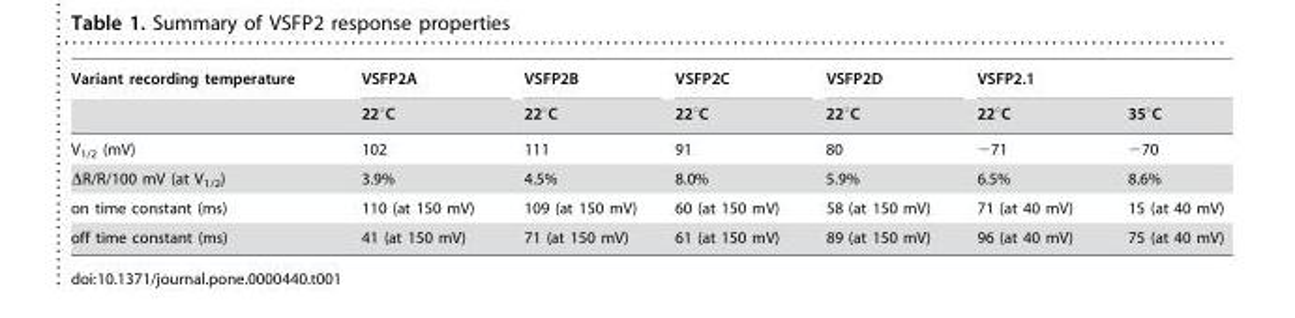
<table><thead><tr><td rowspan="2">Variant recording temperature</td><td rowspan="2">VSFP2A 22°C</td><td rowspan="2">VSFP2B 22°C</td><td rowspan="2">VSFP2C 22°C</td><td rowspan="2">VSFP2D 22°C</td><td colspan="2">VSFP2.1</td></tr><tr><td>22°C</td><td>35°C</td></tr></thead><tbody><tr><td>V<sub>1/2</sub> (mV)</td><td>102</td><td>111</td><td>91</td><td>80</td><td>−71</td><td>−70</td></tr><tr><td>ΔR/R/100 mV (at V<sub>1/2</sub>)</td><td>3.9%</td><td>4.5%</td><td>8.0%</td><td>5.9%</td><td>6.5%</td><td>8.6%</td></tr><tr><td>on time constant (ms)</td><td>110 (at 150 mV)</td><td>109 (at 150 mV)</td><td>60 (at 150 mV)</td><td>58 (at 150 mV)</td><td>71 (at 40 mV)</td><td>15 (at 40 mV)</td></tr><tr><td>off time constant (ms)</td><td>41 (at 150 mV)</td><td>71 (at 150 mV)</td><td>61 (at 150 mV)</td><td>89 (at 150 mV)</td><td>96 (at 40 mV)</td><td>75 (at 40 mV)</td></tr></tbody></table>